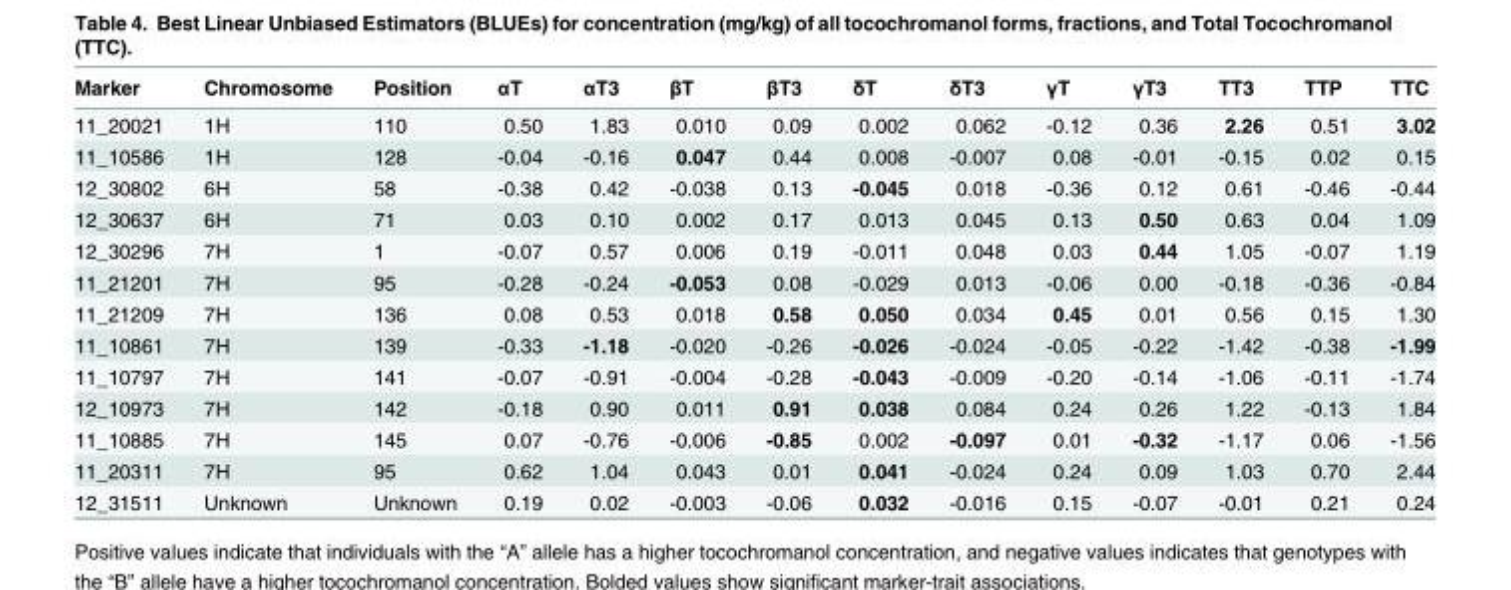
<table><thead><tr><td>Marker</td><td>Chromosome</td><td>Position</td><td>αT</td><td>αT3</td><td>βT</td><td>βT3</td><td>δT</td><td>δT3</td><td>γT</td><td>γT3</td><td>TT3</td><td>TTP</td><td>TTC</td></tr></thead><tbody><tr><td>11_20021</td><td>1H</td><td>110</td><td>0.50</td><td>1.83</td><td>0.010</td><td>0.09</td><td>0.002</td><td>0.062</td><td>-0.12</td><td>0.36</td><td>2.26</td><td>0.51</td><td>3.02</td></tr><tr><td>11_10586</td><td>1H</td><td>128</td><td>-0.04</td><td>-0.16</td><td>0.047</td><td>0.44</td><td>0.008</td><td>-0.007</td><td>0.08</td><td>-0.01</td><td>-0.15</td><td>0.02</td><td>0.15</td></tr><tr><td>12_30802</td><td>6H</td><td>58</td><td>-0.38</td><td>0.42</td><td>-0.038</td><td>0.13</td><td>-0.045</td><td>0.018</td><td>-0.36</td><td>0.12</td><td>0.61</td><td>-0.46</td><td>-0.44</td></tr><tr><td>12_30637</td><td>6H</td><td>71</td><td>0.03</td><td>0.10</td><td>0.002</td><td>0.17</td><td>0.013</td><td>0.045</td><td>0.13</td><td>0.50</td><td>0.63</td><td>0.04</td><td>1.09</td></tr><tr><td>12_30296</td><td>7H</td><td>1</td><td>-0.07</td><td>0.57</td><td>0.006</td><td>0.19</td><td>-0.011</td><td>0.048</td><td>0.03</td><td>0.44</td><td>1.05</td><td>-0.07</td><td>1.19</td></tr><tr><td>11_21201</td><td>7H</td><td>95</td><td>-0.28</td><td>-0.24</td><td>-0.053</td><td>0.08</td><td>-0.029</td><td>0.013</td><td>-0.06</td><td>0.00</td><td>-0.18</td><td>-0.36</td><td>-0.84</td></tr><tr><td>11_21209</td><td>7H</td><td>136</td><td>0.08</td><td>0.53</td><td>0.018</td><td>0.58</td><td>0.050</td><td>0.034</td><td>0.45</td><td>0.01</td><td>0.56</td><td>0.15</td><td>1.30</td></tr><tr><td>11_10861</td><td>7H</td><td>139</td><td>-0.33</td><td>-1.18</td><td>-0.020</td><td>-0.26</td><td>-0.026</td><td>-0.024</td><td>-0.05</td><td>-0.22</td><td>-1.42</td><td>-0.38</td><td>-1.99</td></tr><tr><td>11_10797</td><td>7H</td><td>141</td><td>-0.07</td><td>-0.91</td><td>-0.004</td><td>-0.28</td><td>-0.043</td><td>-0.009</td><td>-0.20</td><td>-0.14</td><td>-1.06</td><td>-0.11</td><td>-1.74</td></tr><tr><td>12_10973</td><td>7H</td><td>142</td><td>-0.18</td><td>0.90</td><td>0.011</td><td>0.91</td><td>0.038</td><td>0.084</td><td>0.24</td><td>0.26</td><td>1.22</td><td>-0.13</td><td>1.84</td></tr><tr><td>11_10885</td><td>7H</td><td>145</td><td>0.07</td><td>-0.76</td><td>-0.006</td><td>-0.85</td><td>0.002</td><td>-0.097</td><td>0.01</td><td>-0.32</td><td>-1.17</td><td>0.06</td><td>-1.56</td></tr><tr><td>11_20311</td><td>7H</td><td>95</td><td>0.62</td><td>1.04</td><td>0.043</td><td>0.01</td><td>0.041</td><td>-0.024</td><td>0.24</td><td>0.09</td><td>1.03</td><td>0.70</td><td>2.44</td></tr><tr><td>12_31511</td><td>Unknown</td><td>Unknown</td><td>0.19</td><td>0.02</td><td>-0.003</td><td>-0.06</td><td>0.032</td><td>-0.016</td><td>0.15</td><td>-0.07</td><td>-0.01</td><td>0.21</td><td>0.24</td></tr></tbody></table>